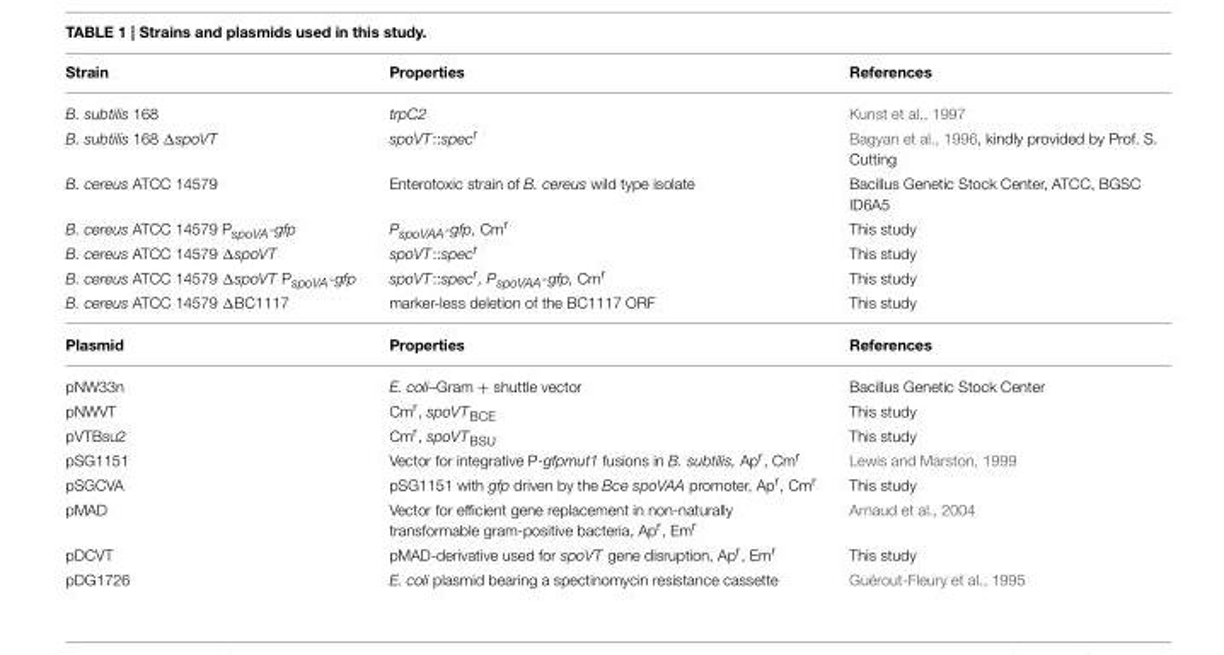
<table><thead><tr><td>Strain</td><td>Properties</td><td>References</td></tr></thead><tbody><tr><td>B. subtilis 168</td><td>trpC2</td><td>Kunst et al., 1997</td></tr><tr><td>B. subtilis 168 ΔspoVT</td><td>spoVT::spec<sup>r</sup></td><td>Bagyan et al., 1996, kindly provided by Prof. S. Cutting</td></tr><tr><td>B. cereus ATCC 14579</td><td>Enterotoxic strain of B. cereus wild type isolate</td><td>Bacillus Genetic Stock Center, ATCC, BGSC ID6A5</td></tr><tr><td>B. cereus ATCC 14579 P<sub>spoVA</sub>-gfp</td><td>PspoVAA-gfp, Cm<sup>r</sup></td><td>This study</td></tr><tr><td>B. cereus ATCC 14579 ΔspoVT</td><td>spoVT::spec<sup>r</sup></td><td>This study</td></tr><tr><td>B. cereus ATCC 14579 ΔspoVT P<sub>spoVA</sub>-gfp</td><td>spoVT::spec<sup>r</sup>, PspoVAA-gfp, Cm<sup>r</sup></td><td>This study</td></tr><tr><td>B. cereus ATCC 14579 ΔBC1117</td><td>marker-less deletion of the BC1117 ORF</td><td>This study</td></tr><tr><td>Plasmid</td><td>Properties</td><td>References</td></tr><tr><td>pNW33n</td><td>E. coli–Gram + shuttle vector</td><td>Bacillus Genetic Stock Center</td></tr><tr><td>pNWVT</td><td>Cm<sup>r</sup>, spoVT<sub>BCE</sub></td><td>This study</td></tr><tr><td>pVTBsu2</td><td>Cm<sup>r</sup>, spoVT<sub>BSU</sub></td><td>This study</td></tr><tr><td>pSG1151</td><td>Vector for integrative P-gfpmut1 fusions in B. subtilis, Ap<sup>r</sup>, Cm<sup>r</sup></td><td>Lewis and Marston, 1999</td></tr><tr><td>pSGCVA</td><td>pSG1151 with gfp driven by the Bce spoVAA promoter, Ap<sup>r</sup>, Cm<sup>r</sup></td><td>This study</td></tr><tr><td>pMAD</td><td>Vector for efficient gene replacement in non-naturally transformable gram-positive bacteria, Ap<sup>r</sup>, Em<sup>r</sup></td><td>Arnaud et al., 2004</td></tr><tr><td>pDCVT</td><td>pMAD-derivative used for spoVT gene disruption, Ap<sup>r</sup>, Em<sup>r</sup></td><td>This study</td></tr><tr><td>pDG1726</td><td>E. coli plasmid bearing a spectinomycin resistance cassette</td><td>Guérout-Fleury et al., 1995</td></tr></tbody></table>